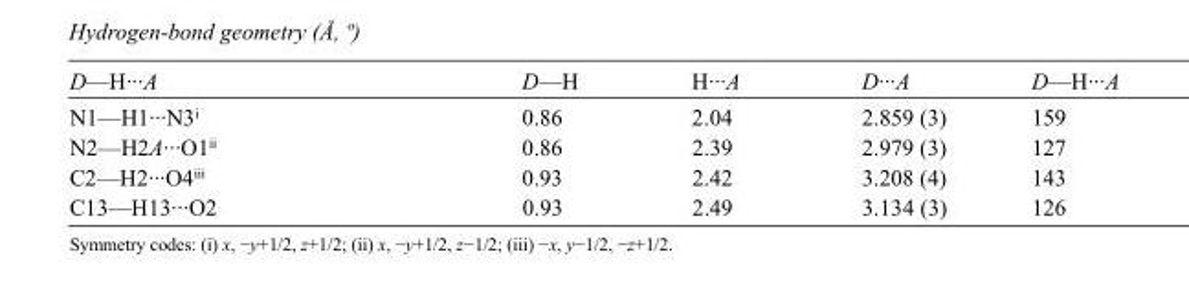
<table><tbody><tr><td>D—H···A</td><td>D—H</td><td>H···A</td><td>D···A</td><td>D—H···A</td></tr><tr><td>N1—H1···N3<sup>i</sup></td><td>0.86</td><td>2.04</td><td>2.859 (3)</td><td>159</td></tr><tr><td>N2—H2A···O1<sup>ii</sup></td><td>0.86</td><td>2.39</td><td>2.979 (3)</td><td>127</td></tr><tr><td>C2—H2···O4<sup>iii</sup></td><td>0.93</td><td>2.42</td><td>3.208 (4)</td><td>143</td></tr><tr><td>C13—H13···O2</td><td>0.93</td><td>2.49</td><td>3.134 (3)</td><td>126</td></tr></tbody></table>